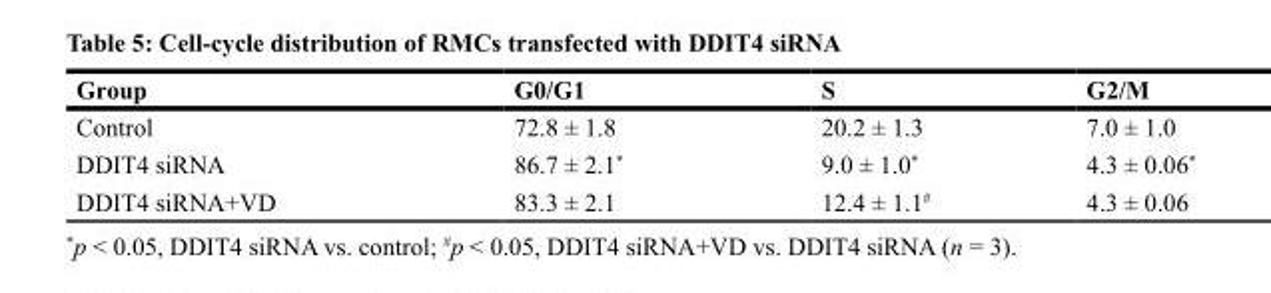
<table><thead><tr><td>Group</td><td>G0/G1</td><td>S</td><td>G2/M</td></tr></thead><tbody><tr><td>Control</td><td>72.8 ± 1.8</td><td>20.2 ± 1.3</td><td>7.0 ± 1.0</td></tr><tr><td>DDIT4 siRNA</td><td>86.7 ± 2.1*</td><td>9.0 ± 1.0*</td><td>4.3 ± 0.06*</td></tr><tr><td>DDIT4 siRNA+VD</td><td>83.3 ± 2.1</td><td>12.4 ± 1.1<sup>#</sup></td><td>4.3 ± 0.06</td></tr></tbody></table>